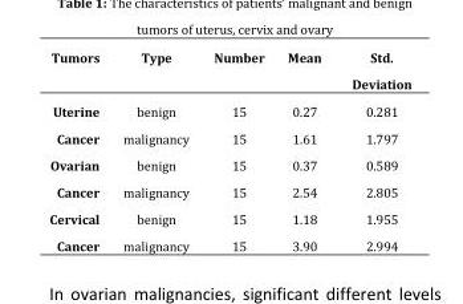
<table><thead><tr><td>Tumors</td><td>Type</td><td>Number</td><td>Mean</td><td>Std. Deviation</td></tr></thead><tbody><tr><td>Uterine</td><td>benign</td><td>15</td><td>0.27</td><td>0.281</td></tr><tr><td>Cancer</td><td>malignancy</td><td>15</td><td>1.61</td><td>1.797</td></tr><tr><td>Ovarian</td><td>benign</td><td>15</td><td>0.37</td><td>0.589</td></tr><tr><td>Cancer</td><td>malignancy</td><td>15</td><td>2.54</td><td>2.805</td></tr><tr><td>Cervical</td><td>benign</td><td>15</td><td>1.18</td><td>1.955</td></tr><tr><td>Cancer</td><td>malignancy</td><td>15</td><td>3.90</td><td>2.994</td></tr></tbody></table>